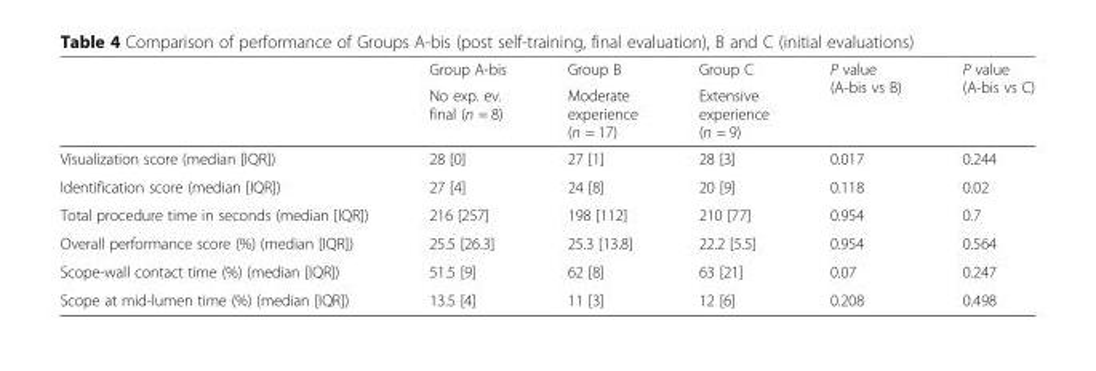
<table><thead><tr><td rowspan="2"></td><td rowspan="2">Group A-bis No exp. ev. final (n = 8)</td><td rowspan="2">Group B Moderate experience (n = 17)</td><td rowspan="2">Group C Extensive experience (n = 9)</td><td rowspan="2">P value (A-bis vs B)</td><td rowspan="2">P value (A-bis vs C)</td></tr><tr></tr></thead><tbody><tr><td>Visualization score (median [IQR])</td><td>28 [0]</td><td>27 [1]</td><td>28 [3]</td><td>0.017</td><td>0.244</td></tr><tr><td>Identification score (median [IQR])</td><td>27 [4]</td><td>24 [8]</td><td>20 [9]</td><td>0.118</td><td>0.02</td></tr><tr><td>Total procedure time in seconds (median [IQR])</td><td>216 [257]</td><td>198 [112]</td><td>210 [77]</td><td>0.954</td><td>0.7</td></tr><tr><td>Overall performance score (%) (median [IQR])</td><td>25.5 [26.3]</td><td>25.3 [13.8]</td><td>22.2 [5.5]</td><td>0.954</td><td>0.564</td></tr><tr><td>Scope-wall contact time (%) (median [IQR])</td><td>51.5 [9]</td><td>62 [8]</td><td>63 [21]</td><td>0.07</td><td>0.247</td></tr><tr><td>Scope at mid-lumen time (%) (median [IQR])</td><td>13.5 [4]</td><td>11 [3]</td><td>12 [6]</td><td>0.208</td><td>0.498</td></tr></tbody></table>